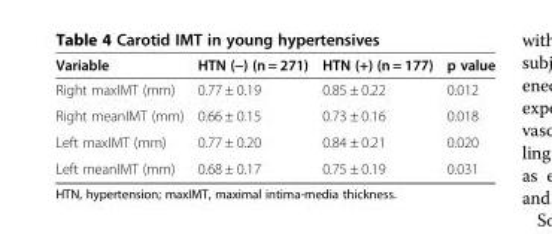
<table><thead><tr><td>Variable</td><td>HTN (−) (n = 271)</td><td>HTN (+) (n = 177)</td><td>p value</td></tr></thead><tbody><tr><td>Right maxIMT (mm)</td><td>0.77 ± 0.19</td><td>0.85 ± 0.22</td><td>0.012</td></tr><tr><td>Right meanIMT (mm)</td><td>0.66 ± 0.15</td><td>0.73 ± 0.16</td><td>0.018</td></tr><tr><td>Left maxIMT (mm)</td><td>0.77 ± 0.20</td><td>0.84 ± 0.21</td><td>0.020</td></tr><tr><td>Left meanIMT (mm)</td><td>0.68 ± 0.17</td><td>0.75 ± 0.19</td><td>0.031</td></tr></tbody></table>